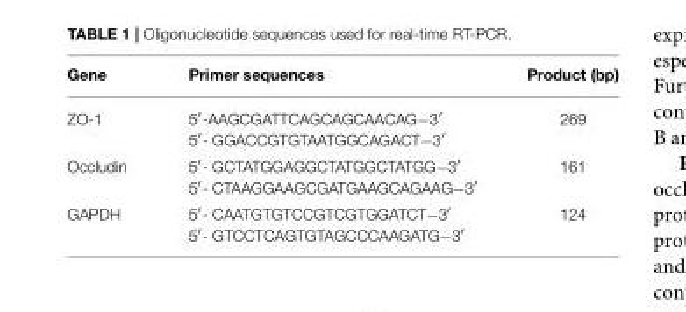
<table><thead><tr><td>Gene</td><td>Primer sequences</td><td>Product (bp)</td></tr></thead><tbody><tr><td>ZO-1</td><td>5′-AAGCGATTCAGCAGCAACAG−3′ 5′- GGACCGTGTAATGGCAGACT−3′</td><td>269</td></tr><tr><td>Occludin</td><td>5′- GCTATGGAGGCTATGGCTATGG−3′ 5′- CTAAGGAAGCGATGAAGCAGAAG−3′</td><td>161</td></tr><tr><td>GAPDH</td><td>5′- CAATGTGTCCGTCGTGGATCT−3′ 5′- GTCCTCAGTGTAGCCCAAGATG−3′</td><td>124</td></tr></tbody></table>